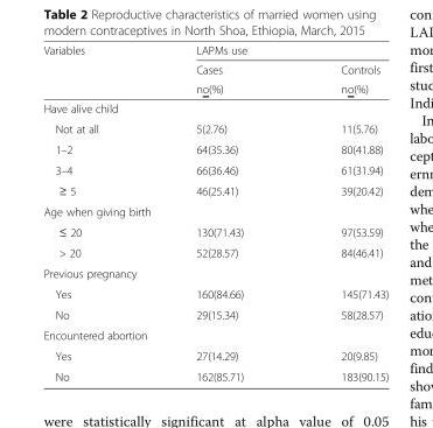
<table><thead><tr><td rowspan="3">Variables</td><td colspan="2">LAPMs use</td></tr><tr><td rowspan="2">Cases no(%)</td><td rowspan="2">Controls no(%)</td></tr><tr></tr></thead><tbody><tr><td colspan="3">Have alive child</td></tr><tr><td>Not at all</td><td>5(2.76)</td><td>11(5.76)</td></tr><tr><td>1–2</td><td>64(35.36)</td><td>80(41.88)</td></tr><tr><td>3–4</td><td>66(36.46)</td><td>61(31.94)</td></tr><tr><td>≥ 5</td><td>46(25.41)</td><td>39(20.42)</td></tr><tr><td colspan="3">Age when giving birth</td></tr><tr><td>≤ 20</td><td>130(71.43)</td><td>97(53.59)</td></tr><tr><td>&gt; 20</td><td>52(28.57)</td><td>84(46.41)</td></tr><tr><td colspan="3">Previous pregnancy</td></tr><tr><td>Yes</td><td>160(84.66)</td><td>145(71.43)</td></tr><tr><td>No</td><td>29(15.34)</td><td>58(28.57)</td></tr><tr><td colspan="3">Encountered abortion</td></tr><tr><td>Yes</td><td>27(14.29)</td><td>20(9.85)</td></tr><tr><td>No</td><td>162(85.71)</td><td>183(90.15)</td></tr></tbody></table>